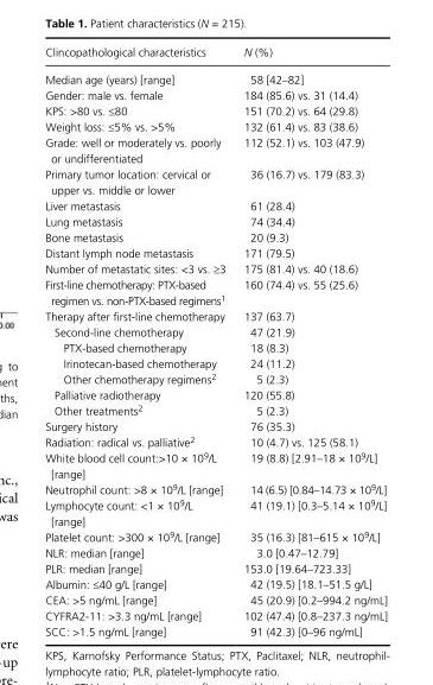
<table><thead><tr><td>Clincopathological characteristics</td><td>N (%)</td></tr></thead><tbody><tr><td>Median age (years) [range]</td><td>58 [42–82]</td></tr><tr><td>Gender: male vs. female</td><td>184 (85.6) vs. 31 (14.4)</td></tr><tr><td>KPS: &gt;80 vs. ≤80</td><td>151 (70.2) vs. 64 (29.8)</td></tr><tr><td>Weight loss: ≤5% vs. &gt;5%</td><td>132 (61.4) vs. 83 (38.6)</td></tr><tr><td>Grade: well or moderately vs. poorly or undifferentiated</td><td>112 (52.1) vs. 103 (47.9)</td></tr><tr><td>Primary tumor location: cervical or upper vs. middle or lower</td><td>36 (16.7) vs. 179 (83.3)</td></tr><tr><td>Liver metastasis</td><td>61 (28.4)</td></tr><tr><td>Lung metastasis</td><td>74 (34.4)</td></tr><tr><td>Bone metastasis</td><td>20 (9.3)</td></tr><tr><td>Distant lymph node metastasis</td><td>171 (79.5)</td></tr><tr><td>Number of metastatic sites: &lt;3 vs. ≥3</td><td>175 (81.4) vs. 40 (18.6)</td></tr><tr><td>First- line chemotherapy: PTX- based regimen vs. non- PTX- based regimens1</td><td>160 (74.4) vs. 55 (25.6)</td></tr><tr><td>Therapy after first- line chemotherapy</td><td>137 (63.7)</td></tr><tr><td>Second- line chemotherapy</td><td>47 (21.9)</td></tr><tr><td>PTX- based chemotherapy</td><td>18 (8.3)</td></tr><tr><td>Irinotecan- based chemotherapy</td><td>24 (11.2)</td></tr><tr><td>Other chemotherapy regimens2</td><td>5 (2.3)</td></tr><tr><td>Palliative radiotherapy</td><td>120 (55.8)</td></tr><tr><td>Other treatments2</td><td>5 (2.3)</td></tr><tr><td>Surgery history</td><td>76 (35.3)</td></tr><tr><td>Radiation: radical vs. palliative2</td><td>10 (4.7) vs. 125 (58.1)</td></tr><tr><td>White blood cell count:&gt;10 × 10<sup>9</sup>/L [range]</td><td>19 (8.8) [2.91–18 × 10<sup>9</sup>/L]</td></tr><tr><td>Neutrophil count: &gt;8 × 10<sup>9</sup>/L [range]</td><td>14 (6.5) [0.84–14.73 × 10<sup>9</sup>/L]</td></tr><tr><td>Lymphocyte count: &lt;1 × 10<sup>9</sup>/L [range]</td><td>41 (19.1) [0.3–5.14 × 10<sup>9</sup>/L]</td></tr><tr><td>Platelet count: &gt;300 × 10<sup>9</sup>/L [range]</td><td>35 (16.3) [81–615 × 10<sup>9</sup>/L]</td></tr><tr><td>NLR: median [range]</td><td>3.0 [0.47–12.79]</td></tr><tr><td>PLR: median [range]</td><td>153.0 [19.64–723.33]</td></tr><tr><td>Albumin: ≤40 g/L [range]</td><td>42 (19.5) [18.1–51.5 g/L]</td></tr><tr><td>CEA: &gt;5 ng/mL [range]</td><td>45 (20.9) [0.2–994.2 ng/mL]</td></tr><tr><td>CYFRA2- 11: &gt;3.3 ng/mL [range]</td><td>102 (47.4) [0.8–237.3 ng/mL]</td></tr><tr><td>SCC: &gt;1.5 ng/mL [range]</td><td>91 (42.3) [0–96 ng/mL]</td></tr></tbody></table>